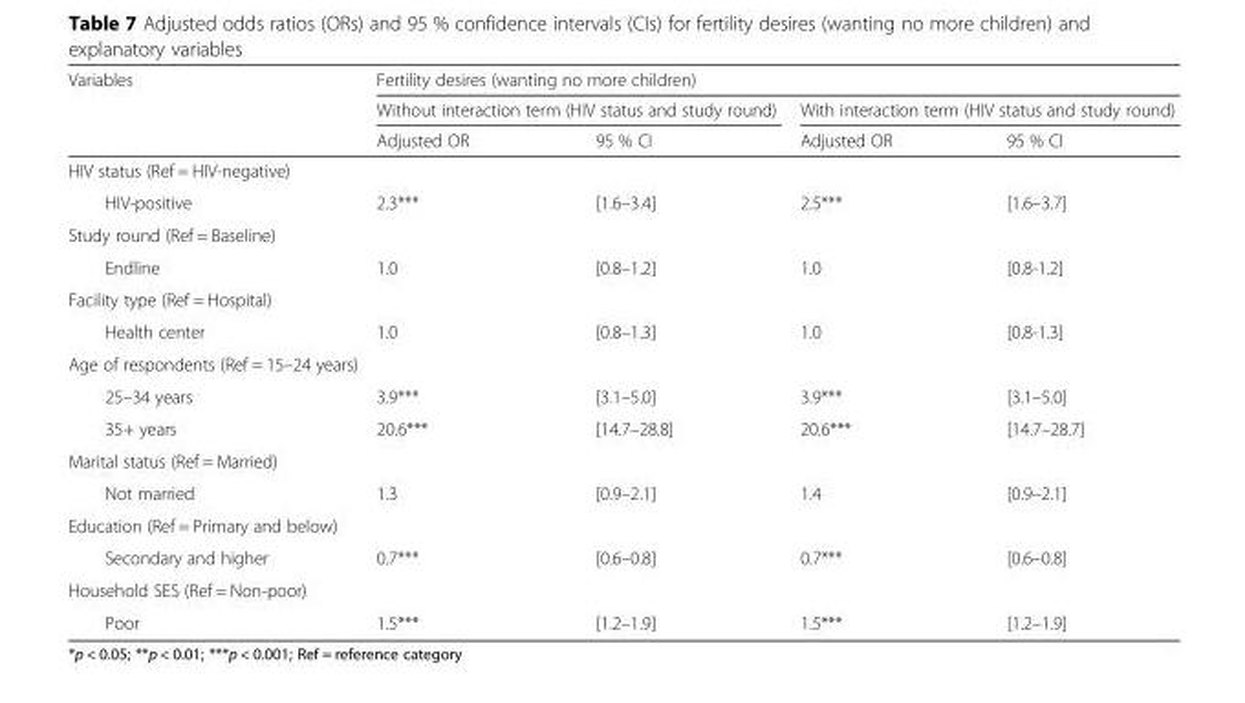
<table><thead><tr><td rowspan="3">Variables</td><td colspan="4">Fertility desires (wanting no more children)</td></tr><tr><td colspan="2">Without interaction term (HIV status and study round)</td><td colspan="2">With interaction term (HIV status and study round)</td></tr><tr><td>Adjusted OR</td><td>95 % CI</td><td>Adjusted OR</td><td>95 % CI</td></tr></thead><tbody><tr><td colspan="5">HIV status (Ref = HIV-negative)</td></tr><tr><td>HIV-positive</td><td>2.3***</td><td>[1.6–3.4]</td><td>2.5***</td><td>[1.6–3.7]</td></tr><tr><td colspan="5">Study round (Ref = Baseline)</td></tr><tr><td>Endline</td><td>1.0</td><td>[0.8–1.2]</td><td>1.0</td><td>[0.8-1.2]</td></tr><tr><td colspan="5">Facility type (Ref = Hospital)</td></tr><tr><td>Health center</td><td>1.0</td><td>[0.8–1.3]</td><td>1.0</td><td>[0.8-1.3]</td></tr><tr><td colspan="5">Age of respondents (Ref = 15–24 years)</td></tr><tr><td>25–34 years</td><td>3.9***</td><td>[3.1–5.0]</td><td>3.9***</td><td>[3.1–5.0]</td></tr><tr><td>35+ years</td><td>20.6***</td><td>[14.7–28.8]</td><td>20.6***</td><td>[14.7–28.7]</td></tr><tr><td colspan="5">Marital status (Ref = Married)</td></tr><tr><td>Not married</td><td>1.3</td><td>[0.9–2.1]</td><td>1.4</td><td>[0.9–2.1]</td></tr><tr><td colspan="5">Education (Ref = Primary and below)</td></tr><tr><td>Secondary and higher</td><td>0.7***</td><td>[0.6–0.8]</td><td>0.7***</td><td>[0.6–0.8]</td></tr><tr><td colspan="5">Household SES (Ref = Non-poor)</td></tr><tr><td>Poor</td><td>1.5***</td><td>[1.2–1.9]</td><td>1.5***</td><td>[1.2–1.9]</td></tr></tbody></table>